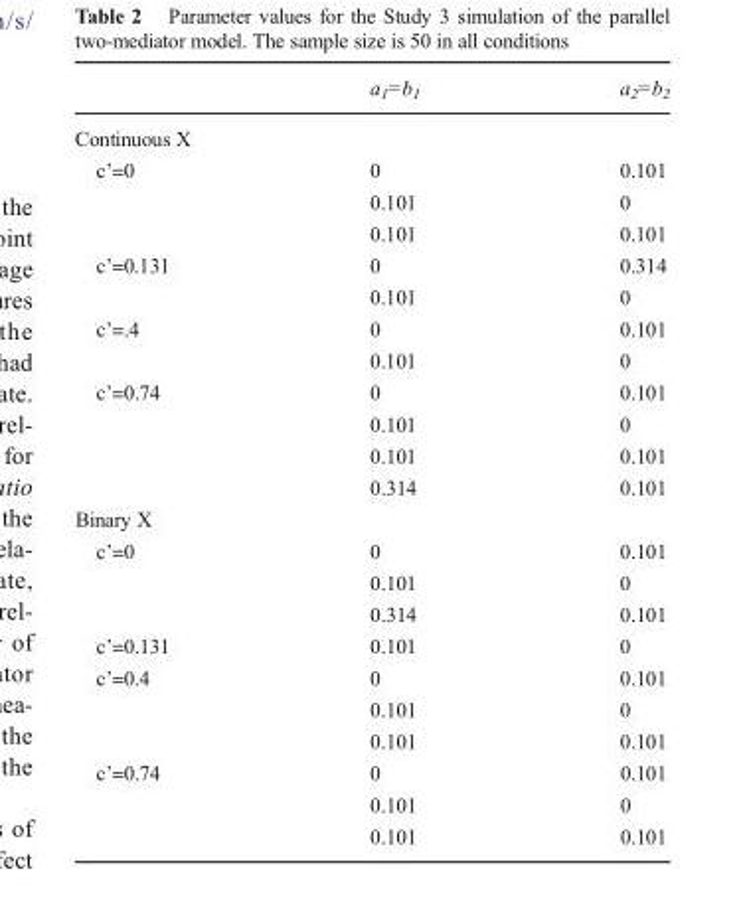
<table><thead><tr><td></td><td>a<sub>1</sub>=b<sub>1</sub></td><td>a<sub>2</sub>=b<sub>2</sub></td></tr></thead><tbody><tr><td colspan="3">Continuous X</td></tr><tr><td rowspan="3">c’=0</td><td>0</td><td>0.101</td></tr><tr><td>0.101</td><td>0</td></tr><tr><td>0.101</td><td>0.101</td></tr><tr><td rowspan="2">c’=0.131</td><td>0</td><td>0.314</td></tr><tr><td>0.101</td><td>0</td></tr><tr><td rowspan="2">c’=.4</td><td>0</td><td>0.101</td></tr><tr><td>0.101</td><td>0</td></tr><tr><td rowspan="4">c’=0.74</td><td>0</td><td>0.101</td></tr><tr><td>0.101</td><td>0</td></tr><tr><td>0.101</td><td>0.101</td></tr><tr><td>0.314</td><td>0.101</td></tr><tr><td colspan="3">Binary X</td></tr><tr><td rowspan="3">c’=0</td><td>0</td><td>0.101</td></tr><tr><td>0.101</td><td>0</td></tr><tr><td>0.314</td><td>0.101</td></tr><tr><td>c’=0.131</td><td>0.101</td><td>0</td></tr><tr><td rowspan="3">c’=0.4</td><td>0</td><td>0.101</td></tr><tr><td>0.101</td><td>0</td></tr><tr><td>0.101</td><td>0.101</td></tr><tr><td rowspan="3">c’=0.74</td><td>0</td><td>0.101</td></tr><tr><td>0.101</td><td>0</td></tr><tr><td>0.101</td><td>0.101</td></tr></tbody></table>